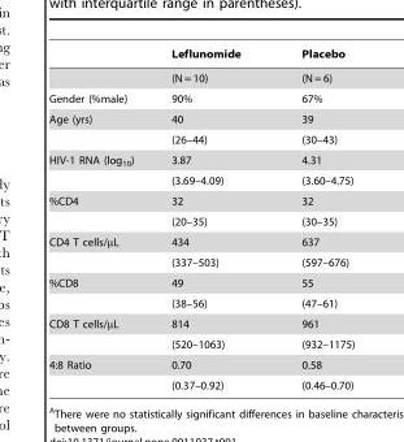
<table><thead><tr><td></td><td>Leflunomide</td><td>Placebo</td></tr></thead><tbody><tr><td></td><td>(N = 10)</td><td>(N = 6)</td></tr><tr><td>Gender (%male)</td><td>90%</td><td>67%</td></tr><tr><td rowspan="2">Age (yrs)</td><td>40</td><td>39</td></tr><tr><td>(26–44)</td><td>(30–43)</td></tr><tr><td rowspan="2">HIV-1 RNA (log<sub>10</sub>)</td><td>3.87</td><td>4.31</td></tr><tr><td>(3.69–4.09)</td><td>(3.60–4.75)</td></tr><tr><td rowspan="2">%CD4</td><td>32</td><td>32</td></tr><tr><td>(20–35)</td><td>(30–35)</td></tr><tr><td rowspan="2">CD4 T cells/µL</td><td>434</td><td>637</td></tr><tr><td>(337–503)</td><td>(597–676)</td></tr><tr><td rowspan="2">%CD8</td><td>49</td><td>55</td></tr><tr><td>(38–56)</td><td>(47–61)</td></tr><tr><td rowspan="2">CD8 T cells/µL</td><td>814</td><td>961</td></tr><tr><td>(520–1063)</td><td>(932–1175)</td></tr><tr><td rowspan="2">4:8 Ratio</td><td>0.70</td><td>0.58</td></tr><tr><td>(0.37–0.92)</td><td>(0.46–0.70)</td></tr></tbody></table>